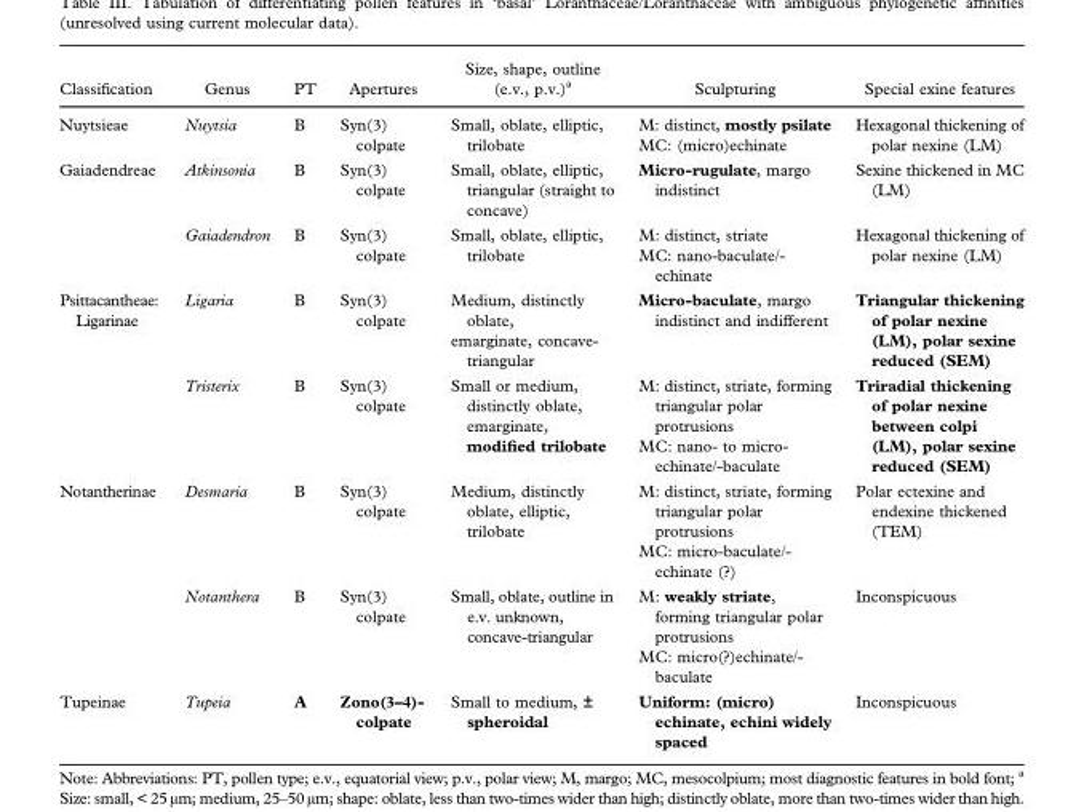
<table><thead><tr><td>Classification</td><td>Genus</td><td>PT</td><td>Apertures</td><td>Size, shape, outline (e.v., p.v.)<sup>a</sup></td><td>Sculpturing</td><td>Special exine features</td></tr></thead><tbody><tr><td>Nuytsieae</td><td>Nuytsia</td><td>B</td><td>Syn(3) colpate</td><td>Small, oblate, elliptic, trilobate</td><td>M: distinct, mostly psilate MC: (micro)echinate</td><td>Hexagonal thickening of polar nexine (LM)</td></tr><tr><td rowspan="2">Gaiadendreae</td><td>Atkinsonia</td><td>B</td><td>Syn(3) colpate</td><td>Small, oblate, elliptic, triangular (straight to concave)</td><td>Micro-rugulate, margo indistinct</td><td>Sexine thickened in MC (LM)</td></tr><tr><td>Gaiadendron</td><td>B</td><td>Syn(3) colpate</td><td>Small, oblate, elliptic, trilobate</td><td>M: distinct, striate MC: nano-baculate/- echinate</td><td>Hexagonal thickening of polar nexine (LM)</td></tr><tr><td rowspan="2">Psittacantheae: Ligarinae</td><td>Ligaria</td><td>B</td><td>Syn(3) colpate</td><td>Medium, distinctly oblate, emarginate, concave- triangular</td><td>Micro-baculate, margo indistinct and indifferent</td><td>Triangular thickening of polar nexine (LM), polar sexine reduced (SEM)</td></tr><tr><td>Tristerix</td><td>B</td><td>Syn(3) colpate</td><td>Small or medium, distinctly oblate, emarginate, modified trilobate</td><td>M: distinct, striate, forming triangular polar protrusions MC: nano- to micro- echinate/-baculate</td><td>Triradial thickening of polar nexine between colpi (LM), polar sexine reduced (SEM)</td></tr><tr><td rowspan="2">Notantherinae</td><td>Desmaria</td><td>B</td><td>Syn(3) colpate</td><td>Medium, distinctly oblate, elliptic, trilobate</td><td>M: distinct, striate, forming triangular polar protrusions MC: micro-baculate/- echinate (?)</td><td>Polar ectexine and endexine thickened (TEM)</td></tr><tr><td>Notanthera</td><td>B</td><td>Syn(3) colpate</td><td>Small, oblate, outline in e.v. unknown, concave-triangular</td><td>M: weakly striate, forming triangular polar protrusions MC: micro(?)echinate/- baculate</td><td>Inconspicuous</td></tr><tr><td>Tupeinae</td><td>Tupeia</td><td>A</td><td>Zono(3–4)- colpate</td><td>Small to medium, ± spheroidal</td><td>Uniform: (micro) echinate, echini widely spaced</td><td>Inconspicuous</td></tr></tbody></table>